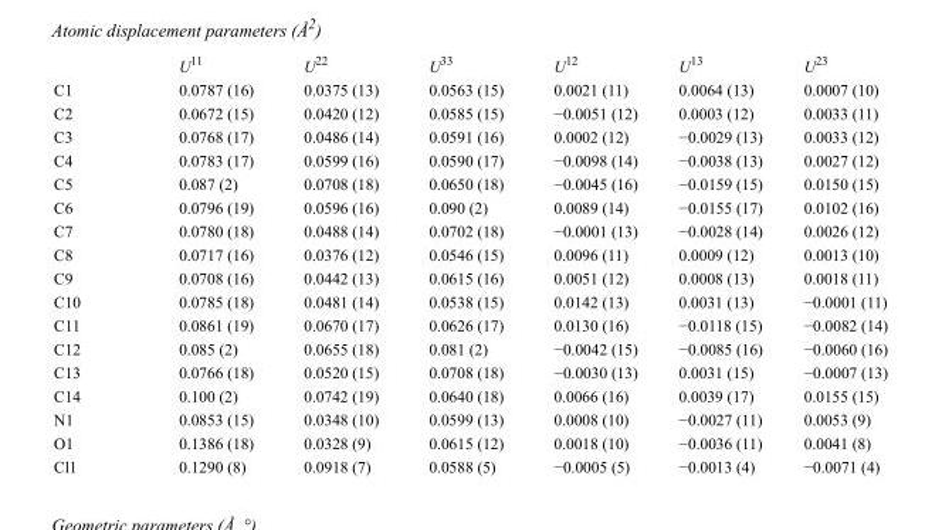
<table><thead><tr><td></td><td>U<sup>11</sup></td><td>U<sup>22</sup></td><td>U<sup>33</sup></td><td>U<sup>12</sup></td><td>U<sup>13</sup></td><td>U<sup>23</sup></td></tr></thead><tbody><tr><td>C1</td><td>0.0787 (16)</td><td>0.0375 (13)</td><td>0.0563 (15)</td><td>0.0021 (11)</td><td>0.0064 (13)</td><td>0.0007 (10)</td></tr><tr><td>C2</td><td>0.0672 (15)</td><td>0.0420 (12)</td><td>0.0585 (15)</td><td>−0.0051 (12)</td><td>0.0003 (12)</td><td>0.0033 (11)</td></tr><tr><td>C3</td><td>0.0768 (17)</td><td>0.0486 (14)</td><td>0.0591 (16)</td><td>0.0002 (12)</td><td>−0.0029 (13)</td><td>0.0033 (12)</td></tr><tr><td>C4</td><td>0.0783 (17)</td><td>0.0599 (16)</td><td>0.0590 (17)</td><td>−0.0098 (14)</td><td>−0.0038 (13)</td><td>0.0027 (12)</td></tr><tr><td>C5</td><td>0.087 (2)</td><td>0.0708 (18)</td><td>0.0650 (18)</td><td>−0.0045 (16)</td><td>−0.0159 (15)</td><td>0.0150 (15)</td></tr><tr><td>C6</td><td>0.0796 (19)</td><td>0.0596 (16)</td><td>0.090 (2)</td><td>0.0089 (14)</td><td>−0.0155 (17)</td><td>0.0102 (16)</td></tr><tr><td>C7</td><td>0.0780 (18)</td><td>0.0488 (14)</td><td>0.0702 (18)</td><td>−0.0001 (13)</td><td>−0.0028 (14)</td><td>0.0026 (12)</td></tr><tr><td>C8</td><td>0.0717 (16)</td><td>0.0376 (12)</td><td>0.0546 (15)</td><td>0.0096 (11)</td><td>0.0009 (12)</td><td>0.0013 (10)</td></tr><tr><td>C9</td><td>0.0708 (16)</td><td>0.0442 (13)</td><td>0.0615 (16)</td><td>0.0051 (12)</td><td>0.0008 (13)</td><td>0.0018 (11)</td></tr><tr><td>C10</td><td>0.0785 (18)</td><td>0.0481 (14)</td><td>0.0538 (15)</td><td>0.0142 (13)</td><td>0.0031 (13)</td><td>−0.0001 (11)</td></tr><tr><td>C11</td><td>0.0861 (19)</td><td>0.0670 (17)</td><td>0.0626 (17)</td><td>0.0130 (16)</td><td>−0.0118 (15)</td><td>−0.0082 (14)</td></tr><tr><td>C12</td><td>0.085 (2)</td><td>0.0655 (18)</td><td>0.081 (2)</td><td>−0.0042 (15)</td><td>−0.0085 (16)</td><td>−0.0060 (16)</td></tr><tr><td>C13</td><td>0.0766 (18)</td><td>0.0520 (15)</td><td>0.0708 (18)</td><td>−0.0030 (13)</td><td>0.0031 (15)</td><td>−0.0007 (13)</td></tr><tr><td>C14</td><td>0.100 (2)</td><td>0.0742 (19)</td><td>0.0640 (18)</td><td>0.0066 (16)</td><td>0.0039 (17)</td><td>0.0155 (15)</td></tr><tr><td>N1</td><td>0.0853 (15)</td><td>0.0348 (10)</td><td>0.0599 (13)</td><td>0.0008 (10)</td><td>−0.0027 (11)</td><td>0.0053 (9)</td></tr><tr><td>O1</td><td>0.1386 (18)</td><td>0.0328 (9)</td><td>0.0615 (12)</td><td>0.0018 (10)</td><td>−0.0036 (11)</td><td>0.0041 (8)</td></tr><tr><td>Cl1</td><td>0.1290 (8)</td><td>0.0918 (7)</td><td>0.0588 (5)</td><td>−0.0005 (5)</td><td>−0.0013 (4)</td><td>−0.0071 (4)</td></tr></tbody></table>